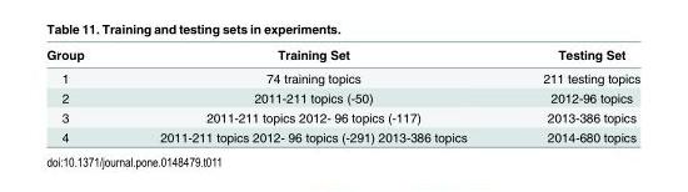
<table><thead><tr><td>Group</td><td>Training Set</td><td>Testing Set</td></tr></thead><tbody><tr><td>1</td><td>74 training topics</td><td>211 testing topics</td></tr><tr><td>2</td><td>2011-211 topics (-50)</td><td>2012-96 topics</td></tr><tr><td>3</td><td>2011-211 topics 2012- 96 topics (-117)</td><td>2013-386 topics</td></tr><tr><td>4</td><td>2011-211 topics 2012- 96 topics (-291) 2013-386 topics</td><td>2014-680 topics</td></tr></tbody></table>